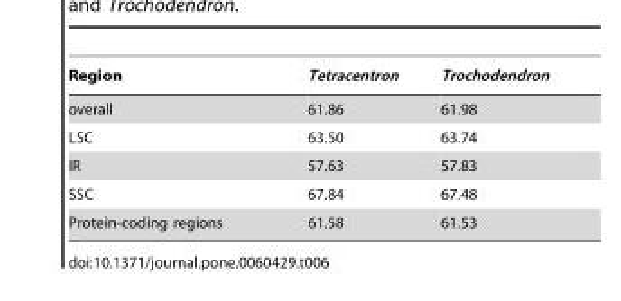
<table><thead><tr><td>Region</td><td>Tetracentron</td><td>Trochodendron</td></tr></thead><tbody><tr><td>overall</td><td>61.86</td><td>61.98</td></tr><tr><td>LSC</td><td>63.50</td><td>63.74</td></tr><tr><td>IR</td><td>57.63</td><td>57.83</td></tr><tr><td>SSC</td><td>67.84</td><td>67.48</td></tr><tr><td>Protein-coding regions</td><td>61.58</td><td>61.53</td></tr></tbody></table>